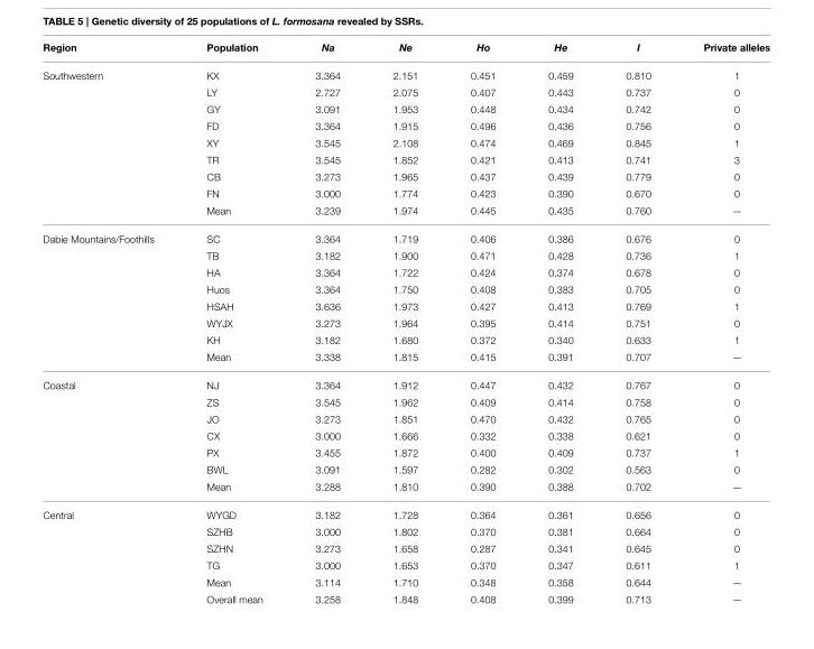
<table><thead><tr><td>Region</td><td>Population</td><td>Na</td><td>Ne</td><td>Ho</td><td>He</td><td>I</td><td>Private alleles</td></tr></thead><tbody><tr><td rowspan="9">Southwestern</td><td>KX</td><td>3.364</td><td>2.151</td><td>0.451</td><td>0.459</td><td>0.810</td><td>1</td></tr><tr><td>LY</td><td>2.727</td><td>2.075</td><td>0.407</td><td>0.443</td><td>0.737</td><td>0</td></tr><tr><td>GY</td><td>3.091</td><td>1.953</td><td>0.448</td><td>0.434</td><td>0.742</td><td>0</td></tr><tr><td>FD</td><td>3.364</td><td>1.915</td><td>0.496</td><td>0.436</td><td>0.756</td><td>0</td></tr><tr><td>XY</td><td>3.545</td><td>2.108</td><td>0.474</td><td>0.469</td><td>0.845</td><td>1</td></tr><tr><td>TR</td><td>3.545</td><td>1.852</td><td>0.421</td><td>0.413</td><td>0.741</td><td>3</td></tr><tr><td>CB</td><td>3.273</td><td>1.965</td><td>0.437</td><td>0.439</td><td>0.779</td><td>0</td></tr><tr><td>FN</td><td>3.000</td><td>1.774</td><td>0.423</td><td>0.390</td><td>0.670</td><td>0</td></tr><tr><td>Mean</td><td>3.239</td><td>1.974</td><td>0.445</td><td>0.435</td><td>0.760</td><td>—</td></tr><tr><td rowspan="8">Dabie Mountains/Foothills</td><td>SC</td><td>3.364</td><td>1.719</td><td>0.406</td><td>0.386</td><td>0.676</td><td>0</td></tr><tr><td>TB</td><td>3.182</td><td>1.900</td><td>0.471</td><td>0.428</td><td>0.736</td><td>1</td></tr><tr><td>HA</td><td>3.364</td><td>1.722</td><td>0.424</td><td>0.374</td><td>0.678</td><td>0</td></tr><tr><td>Huos</td><td>3.364</td><td>1.750</td><td>0.408</td><td>0.383</td><td>0.705</td><td>0</td></tr><tr><td>HSAH</td><td>3.636</td><td>1.973</td><td>0.427</td><td>0.413</td><td>0.769</td><td>1</td></tr><tr><td>WYJX</td><td>3.273</td><td>1.964</td><td>0.395</td><td>0.414</td><td>0.751</td><td>0</td></tr><tr><td>KH</td><td>3.182</td><td>1.680</td><td>0.372</td><td>0.340</td><td>0.633</td><td>1</td></tr><tr><td>Mean</td><td>3.338</td><td>1.815</td><td>0.415</td><td>0.391</td><td>0.707</td><td>—</td></tr><tr><td rowspan="7">Coastal</td><td>NJ</td><td>3.364</td><td>1.912</td><td>0.447</td><td>0.432</td><td>0.767</td><td>0</td></tr><tr><td>ZS</td><td>3.545</td><td>1.962</td><td>0.409</td><td>0.414</td><td>0.758</td><td>0</td></tr><tr><td>JO</td><td>3.273</td><td>1.851</td><td>0.470</td><td>0.432</td><td>0.765</td><td>0</td></tr><tr><td>CX</td><td>3.000</td><td>1.666</td><td>0.332</td><td>0.338</td><td>0.621</td><td>0</td></tr><tr><td>PX</td><td>3.455</td><td>1.872</td><td>0.400</td><td>0.409</td><td>0.737</td><td>1</td></tr><tr><td>BWL</td><td>3.091</td><td>1.597</td><td>0.282</td><td>0.302</td><td>0.563</td><td>0</td></tr><tr><td>Mean</td><td>3.288</td><td>1.810</td><td>0.390</td><td>0.388</td><td>0.702</td><td>—</td></tr><tr><td rowspan="6">Central</td><td>WYGD</td><td>3.182</td><td>1.728</td><td>0.364</td><td>0.361</td><td>0.656</td><td>0</td></tr><tr><td>SZHB</td><td>3.000</td><td>1.802</td><td>0.370</td><td>0.381</td><td>0.664</td><td>0</td></tr><tr><td>SZHN</td><td>3.273</td><td>1.658</td><td>0.287</td><td>0.341</td><td>0.645</td><td>0</td></tr><tr><td>TG</td><td>3.000</td><td>1.653</td><td>0.370</td><td>0.347</td><td>0.611</td><td>1</td></tr><tr><td>Mean</td><td>3.114</td><td>1.710</td><td>0.348</td><td>0.358</td><td>0.644</td><td>—</td></tr><tr><td>Overall mean</td><td>3.258</td><td>1.848</td><td>0.408</td><td>0.399</td><td>0.713</td><td>—</td></tr></tbody></table>